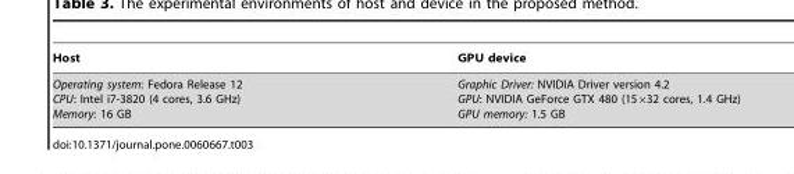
<table><thead><tr><td>Host</td><td>GPU device</td></tr></thead><tbody><tr><td>Operating system: Fedora Release 12 CPU: Intel i7-3820 (4 cores, 3.6 GHz) Memory: 16 GB</td><td>Graphic Driver: NVIDIA Driver version 4.2 GPU: NVIDIA GeForce GTX 480 (15×32 cores, 1.4 GHz) GPU memory: 1.5 GB</td></tr></tbody></table>